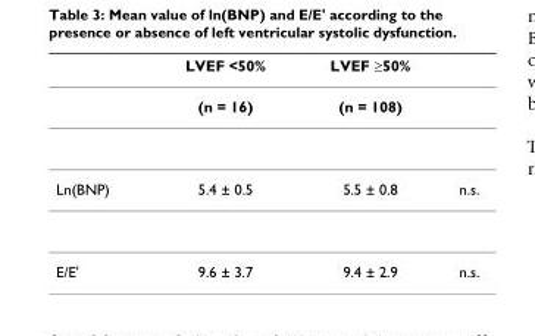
<table><thead><tr><td></td><td>LVEF &lt;50%</td><td>LVEF ≥50%</td><td></td></tr></thead><tbody><tr><td></td><td>(n = 16)</td><td>(n = 108)</td><td></td></tr><tr><td>Ln(BNP)</td><td>5.4 ± 0.5</td><td>5.5 ± 0.8</td><td>n.s.</td></tr><tr><td>E/E&#x27;</td><td>9.6 ± 3.7</td><td>9.4 ± 2.9</td><td>n.s.</td></tr></tbody></table>